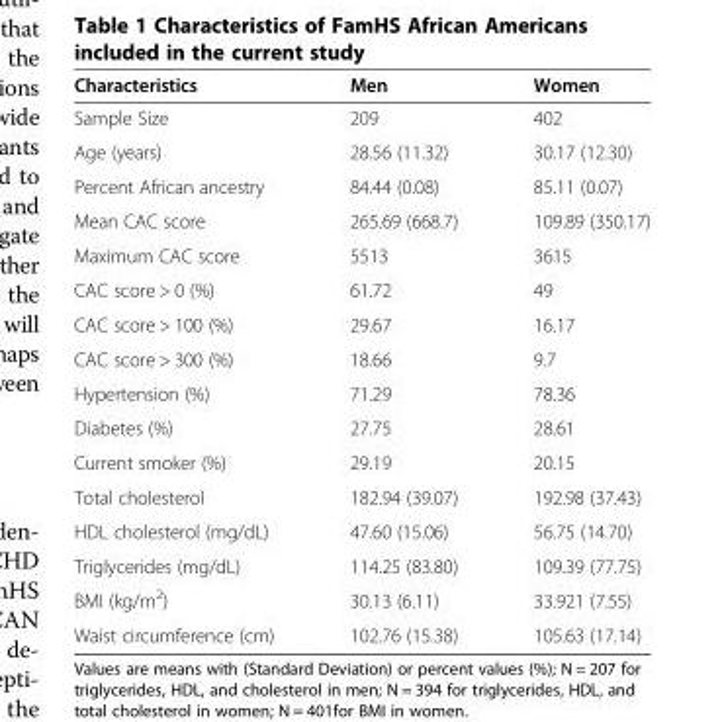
<table><thead><tr><td>Characteristics</td><td>Men</td><td>Women</td></tr></thead><tbody><tr><td>Sample Size</td><td>209</td><td>402</td></tr><tr><td>Age (years)</td><td>28.56 (11.32)</td><td>30.17 (12.30)</td></tr><tr><td>Percent African ancestry</td><td>84.44 (0.08)</td><td>85.11 (0.07)</td></tr><tr><td>Mean CAC score</td><td>265.69 (668.7)</td><td>109.89 (350.17)</td></tr><tr><td>Maximum CAC score</td><td>5513</td><td>3615</td></tr><tr><td>CAC score &gt; 0 (%)</td><td>61.72</td><td>49</td></tr><tr><td>CAC score &gt; 100 (%)</td><td>29.67</td><td>16.17</td></tr><tr><td>CAC score &gt; 300 (%)</td><td>18.66</td><td>9.7</td></tr><tr><td>Hypertension (%)</td><td>71.29</td><td>78.36</td></tr><tr><td>Diabetes (%)</td><td>27.75</td><td>28.61</td></tr><tr><td>Current smoker (%)</td><td>29.19</td><td>20.15</td></tr><tr><td>Total cholesterol</td><td>182.94 (39.07)</td><td>192.98 (37.43)</td></tr><tr><td>HDL cholesterol (mg/dL)</td><td>47.60 (15.06)</td><td>56.75 (14.70)</td></tr><tr><td>Triglycerides (mg/dL)</td><td>114.25 (83.80)</td><td>109.39 (77.75)</td></tr><tr><td>BMI (kg/m<sup>2</sup>)</td><td>30.13 (6.11)</td><td>33.921 (7.55)</td></tr><tr><td>Waist circumference (cm)</td><td>102.76 (15.38)</td><td>105.63 (17.14)</td></tr></tbody></table>